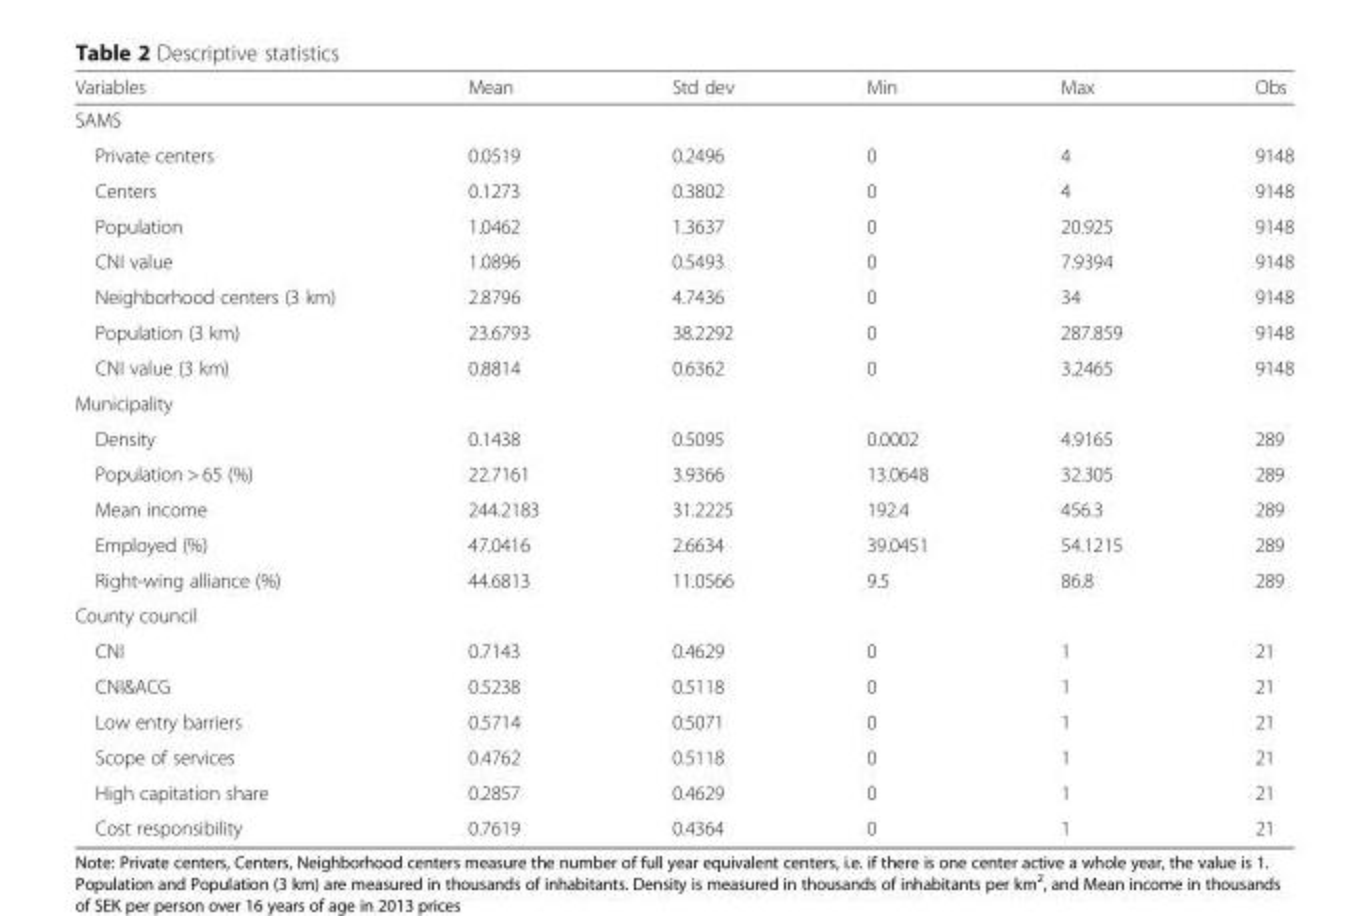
<table><thead><tr><td>Variables</td><td>Mean</td><td>Std dev</td><td>Min</td><td>Max</td><td>Obs</td></tr></thead><tbody><tr><td colspan="6">SAMS</td></tr><tr><td>Private centers</td><td>0.0519</td><td>0.2496</td><td>0</td><td>4</td><td>9148</td></tr><tr><td>Centers</td><td>0.1273</td><td>0.3802</td><td>0</td><td>4</td><td>9148</td></tr><tr><td>Population</td><td>1.0462</td><td>1.3637</td><td>0</td><td>20.925</td><td>9148</td></tr><tr><td>CNI value</td><td>1.0896</td><td>0.5493</td><td>0</td><td>7.9394</td><td>9148</td></tr><tr><td>Neighborhood centers (3 km)</td><td>2.8796</td><td>4.7436</td><td>0</td><td>34</td><td>9148</td></tr><tr><td>Population (3 km)</td><td>23.6793</td><td>38.2292</td><td>0</td><td>287.859</td><td>9148</td></tr><tr><td>CNI value (3 km)</td><td>0.8814</td><td>0.6362</td><td>0</td><td>3.2465</td><td>9148</td></tr><tr><td colspan="6">Municipality</td></tr><tr><td>Density</td><td>0.1438</td><td>0.5095</td><td>0.0002</td><td>4.9165</td><td>289</td></tr><tr><td>Population &gt; 65 (%)</td><td>22.7161</td><td>3.9366</td><td>13.0648</td><td>32.305</td><td>289</td></tr><tr><td>Mean income</td><td>244.2183</td><td>31.2225</td><td>192.4</td><td>456.3</td><td>289</td></tr><tr><td>Employed (%)</td><td>47.0416</td><td>2.6634</td><td>39.0451</td><td>54.1215</td><td>289</td></tr><tr><td>Right-wing alliance (%)</td><td>44.6813</td><td>11.0566</td><td>9.5</td><td>86.8</td><td>289</td></tr><tr><td colspan="6">County council</td></tr><tr><td>CNI</td><td>0.7143</td><td>0.4629</td><td>0</td><td>1</td><td>21</td></tr><tr><td>CNI&amp;ACG</td><td>0.5238</td><td>0.5118</td><td>0</td><td>1</td><td>21</td></tr><tr><td>Low entry barriers</td><td>0.5714</td><td>0.5071</td><td>0</td><td>1</td><td>21</td></tr><tr><td>Scope of services</td><td>0.4762</td><td>0.5118</td><td>0</td><td>1</td><td>21</td></tr><tr><td>High capitation share</td><td>0.2857</td><td>0.4629</td><td>0</td><td>1</td><td>21</td></tr><tr><td>Cost responsibility</td><td>0.7619</td><td>0.4364</td><td>0</td><td>1</td><td>21</td></tr></tbody></table>